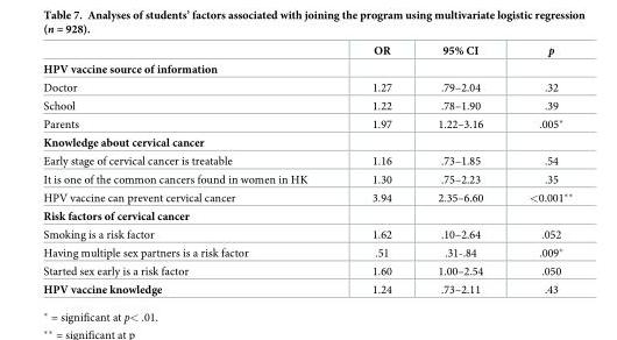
<table><thead><tr><td></td><td>OR</td><td>95% CI</td><td>p</td></tr></thead><tbody><tr><td colspan="4">HPV vaccine source of information</td></tr><tr><td>Doctor</td><td>1.27</td><td>.79–2.04</td><td>.32</td></tr><tr><td>School</td><td>1.22</td><td>.78–1.90</td><td>.39</td></tr><tr><td>Parents</td><td>1.97</td><td>1.22–3.16</td><td>.005*</td></tr><tr><td colspan="4">Knowledge about cervical cancer</td></tr><tr><td>Early stage of cervical cancer is treatable</td><td>1.16</td><td>.73–1.85</td><td>.54</td></tr><tr><td>It is one of the common cancers found in women in HK</td><td>1.30</td><td>.75–2.23</td><td>.35</td></tr><tr><td>HPV vaccine can prevent cervical cancer</td><td>3.94</td><td>2.35–6.60</td><td>&lt;0.001**</td></tr><tr><td colspan="4">Risk factors of cervical cancer</td></tr><tr><td>Smoking is a risk factor</td><td>1.62</td><td>.10–2.64</td><td>.052</td></tr><tr><td>Having multiple sex partners is a risk factor</td><td>.51</td><td>.31-.84</td><td>.009*</td></tr><tr><td>Started sex early is a risk factor</td><td>1.60</td><td>1.00–2.54</td><td>.050</td></tr><tr><td>HPV vaccine knowledge</td><td>1.24</td><td>.73–2.11</td><td>.43</td></tr></tbody></table>